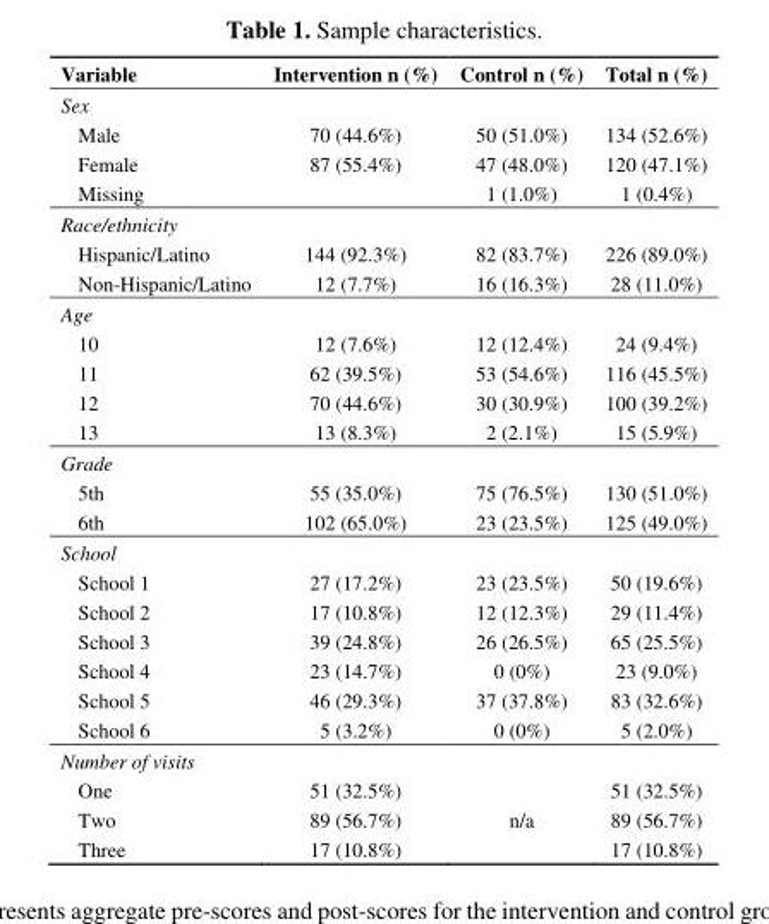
<table><thead><tr><td>Variable</td><td>Intervention n (%)</td><td>Control n (%)</td><td>Total n (%)</td></tr></thead><tbody><tr><td colspan="4">Sex</td></tr><tr><td>Male</td><td>70 (44.6%)</td><td>50 (51.0%)</td><td>134 (52.6%)</td></tr><tr><td>Female</td><td>87 (55.4%)</td><td>47 (48.0%)</td><td>120 (47.1%)</td></tr><tr><td>Missing</td><td></td><td>1 (1.0%)</td><td>1 (0.4%)</td></tr><tr><td colspan="4">Race/ethnicity</td></tr><tr><td>Hispanic/Latino</td><td>144 (92.3%)</td><td>82 (83.7%)</td><td>226 (89.0%)</td></tr><tr><td>Non-Hispanic/Latino</td><td>12 (7.7%)</td><td>16 (16.3%)</td><td>28 (11.0%)</td></tr><tr><td colspan="4">Age</td></tr><tr><td>10</td><td>12 (7.6%)</td><td>12 (12.4%)</td><td>24 (9.4%)</td></tr><tr><td>11</td><td>62 (39.5%)</td><td>53 (54.6%)</td><td>116 (45.5%)</td></tr><tr><td>12</td><td>70 (44.6%)</td><td>30 (30.9%)</td><td>100 (39.2%)</td></tr><tr><td>13</td><td>13 (8.3%)</td><td>2 (2.1%)</td><td>15 (5.9%)</td></tr><tr><td colspan="4">Grade</td></tr><tr><td>5th</td><td>55 (35.0%)</td><td>75 (76.5%)</td><td>130 (51.0%)</td></tr><tr><td>6th</td><td>102 (65.0%)</td><td>23 (23.5%)</td><td>125 (49.0%)</td></tr><tr><td colspan="4">School</td></tr><tr><td>School 1</td><td>27 (17.2%)</td><td>23 (23.5%)</td><td>50 (19.6%)</td></tr><tr><td>School 2</td><td>17 (10.8%)</td><td>12 (12.3%)</td><td>29 (11.4%)</td></tr><tr><td>School 3</td><td>39 (24.8%)</td><td>26 (26.5%)</td><td>65 (25.5%)</td></tr><tr><td>School 4</td><td>23 (14.7%)</td><td>0 (0%)</td><td>23 (9.0%)</td></tr><tr><td>School 5</td><td>46 (29.3%)</td><td>37 (37.8%)</td><td>83 (32.6%)</td></tr><tr><td>School 6</td><td>5 (3.2%)</td><td>0 (0%)</td><td>5 (2.0%)</td></tr><tr><td colspan="4">Number of visits</td></tr><tr><td>One</td><td>51 (32.5%)</td><td></td><td>51 (32.5%)</td></tr><tr><td>Two</td><td>89 (56.7%)</td><td>n/a</td><td>89 (56.7%)</td></tr><tr><td>Three</td><td>17 (10.8%)</td><td></td><td>17 (10.8%)</td></tr></tbody></table>